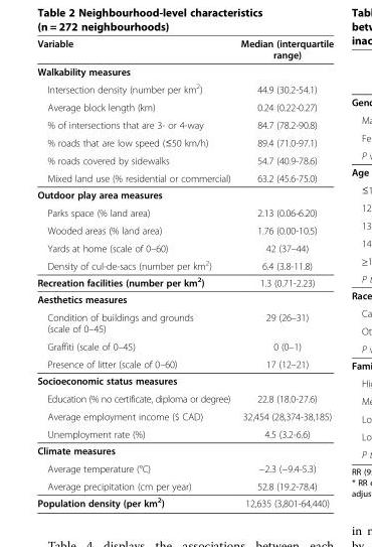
<table><thead><tr><td>Variable</td><td>Median (interquartile range)</td></tr></thead><tbody><tr><td colspan="2">Walkability measures</td></tr><tr><td>Intersection density (number per km<sup>2</sup>)</td><td>44.9 (30.2-54.1)</td></tr><tr><td>Average block length (km)</td><td>0.24 (0.22-0.27)</td></tr><tr><td>% of intersections that are 3- or 4-way</td><td>84.7 (78.2-90.8)</td></tr><tr><td>% roads that are low speed (≤50 km/h)</td><td>89.4 (71.0-97.1)</td></tr><tr><td>% roads covered by sidewalks</td><td>54.7 (40.9-78.6)</td></tr><tr><td>Mixed land use (% residential or commercial)</td><td>63.2 (45.6-75.0)</td></tr><tr><td colspan="2">Outdoor play area measures</td></tr><tr><td>Parks space (% land area)</td><td>2.13 (0.06-6.20)</td></tr><tr><td>Wooded areas (% land area)</td><td>1.76 (0.00-10.5)</td></tr><tr><td>Yards at home (scale of 0–60)</td><td>42 (37–44)</td></tr><tr><td>Density of cul-de-sacs (number per km<sup>2</sup>)</td><td>6.4 (3.8-11.8)</td></tr><tr><td>Recreation facilities (number per km<sup>2</sup>)</td><td>1.3 (0.71-2.23)</td></tr><tr><td colspan="2">Aesthetics measures</td></tr><tr><td>Condition of buildings and grounds (scale of 0–45)</td><td>29 (26–31)</td></tr><tr><td>Graffiti (scale of 0–45)</td><td>0 (0–1)</td></tr><tr><td>Presence of litter (scale of 0–60)</td><td>17 (12–21)</td></tr><tr><td colspan="2">Socioeconomic status measures</td></tr><tr><td>Education (% no certificate, diploma or degree)</td><td>22.8 (18.0-27.6)</td></tr><tr><td>Average employment income ($ CAD)</td><td>32,454 (28,374-38,185)</td></tr><tr><td>Unemployment rate (%)</td><td>4.5 (3.2-6.6)</td></tr><tr><td colspan="2">Climate measures</td></tr><tr><td>Average temperature (°C)</td><td>−2.3 (−9.4-5.3)</td></tr><tr><td>Average precipitation (cm per year)</td><td>52.8 (19.2-78.4)</td></tr><tr><td>Population density (per km<sup>2</sup>)</td><td>12,635 (3,801-64,440)</td></tr></tbody></table>